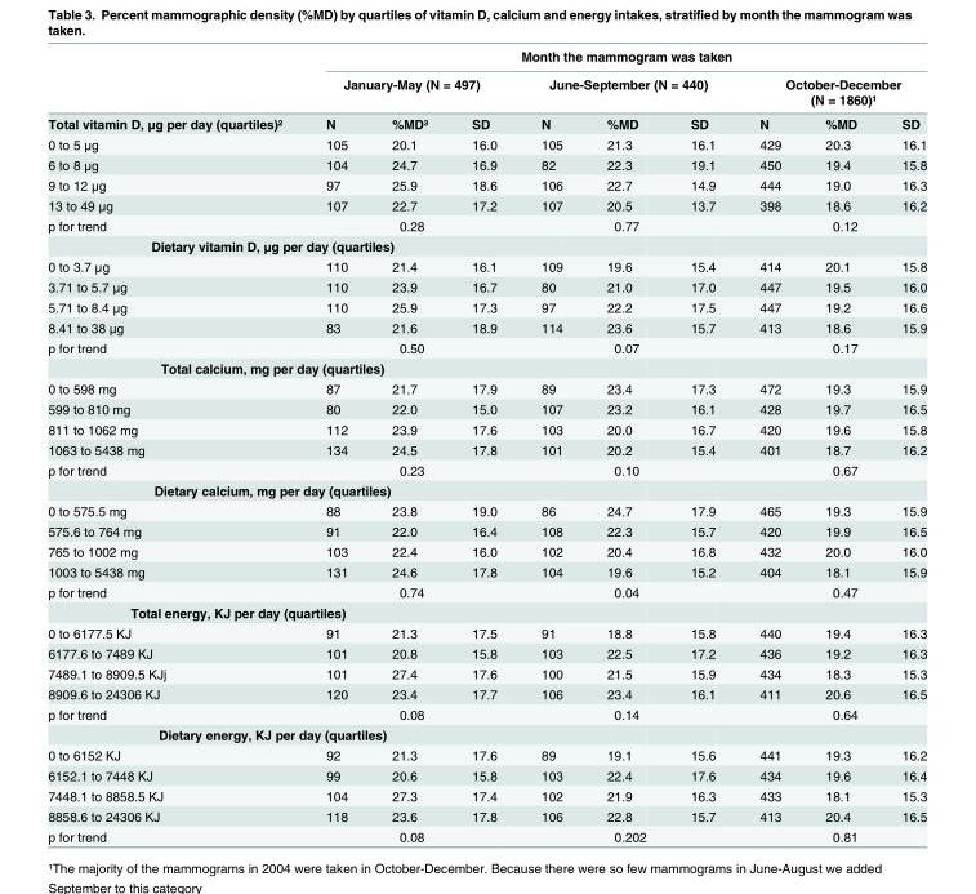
<table><thead><tr><td rowspan="3">Total vitamin D, μg per day (quartiles)²</td><td colspan="9">Month the mammogram was taken</td></tr><tr><td colspan="3">January-May (N = 497)</td><td colspan="3">June-September (N = 440)</td><td colspan="3">October-December (N = 1860)¹</td></tr><tr><td>N</td><td>%MD³</td><td>SD</td><td>N</td><td>%MD</td><td>SD</td><td>N</td><td>%MD</td><td>SD</td></tr></thead><tbody><tr><td>0 to 5 μg</td><td>105</td><td>20.1</td><td>16.0</td><td>105</td><td>21.3</td><td>16.1</td><td>429</td><td>20.3</td><td>16.1</td></tr><tr><td>6 to 8 μg</td><td>104</td><td>24.7</td><td>16.9</td><td>82</td><td>22.3</td><td>19.1</td><td>450</td><td>19.4</td><td>15.8</td></tr><tr><td>9 to 12 μg</td><td>97</td><td>25.9</td><td>18.6</td><td>106</td><td>22.7</td><td>14.9</td><td>444</td><td>19.0</td><td>16.3</td></tr><tr><td>13 to 49 μg</td><td>107</td><td>22.7</td><td>17.2</td><td>107</td><td>20.5</td><td>13.7</td><td>398</td><td>18.6</td><td>16.2</td></tr><tr><td>p for trend</td><td></td><td>0.28</td><td></td><td></td><td>0.77</td><td></td><td></td><td>0.12</td><td></td></tr><tr><td colspan="10">Dietary vitamin D, μg per day (quartiles)</td></tr><tr><td>0 to 3.7 μg</td><td>110</td><td>21.4</td><td>16.1</td><td>109</td><td>19.6</td><td>15.4</td><td>414</td><td>20.1</td><td>15.8</td></tr><tr><td>3.71 to 5.7 μg</td><td>110</td><td>23.9</td><td>16.7</td><td>80</td><td>21.0</td><td>17.0</td><td>447</td><td>19.5</td><td>16.0</td></tr><tr><td>5.71 to 8.4 μg</td><td>110</td><td>25.9</td><td>17.3</td><td>97</td><td>22.2</td><td>17.5</td><td>447</td><td>19.2</td><td>16.6</td></tr><tr><td>8.41 to 38 μg</td><td>83</td><td>21.6</td><td>18.9</td><td>114</td><td>23.6</td><td>15.7</td><td>413</td><td>18.6</td><td>15.9</td></tr><tr><td>p for trend</td><td></td><td>0.50</td><td></td><td></td><td>0.07</td><td></td><td></td><td>0.17</td><td></td></tr><tr><td colspan="10">Total calcium, mg per day (quartiles)</td></tr><tr><td>0 to 598 mg</td><td>87</td><td>21.7</td><td>17.9</td><td>89</td><td>23.4</td><td>17.3</td><td>472</td><td>19.3</td><td>15.9</td></tr><tr><td>599 to 810 mg</td><td>80</td><td>22.0</td><td>15.0</td><td>107</td><td>23.2</td><td>16.1</td><td>428</td><td>19.7</td><td>16.5</td></tr><tr><td>811 to 1062 mg</td><td>112</td><td>23.9</td><td>17.6</td><td>103</td><td>20.0</td><td>16.7</td><td>420</td><td>19.6</td><td>15.8</td></tr><tr><td>1063 to 5438 mg</td><td>134</td><td>24.5</td><td>17.8</td><td>101</td><td>20.2</td><td>15.4</td><td>401</td><td>18.7</td><td>16.2</td></tr><tr><td>p for trend</td><td></td><td>0.23</td><td></td><td></td><td>0.10</td><td></td><td></td><td>0.67</td><td></td></tr><tr><td colspan="10">Dietary calcium, mg per day (quartiles)</td></tr><tr><td>0 to 575.5 mg</td><td>88</td><td>23.8</td><td>19.0</td><td>86</td><td>24.7</td><td>17.9</td><td>465</td><td>19.3</td><td>15.9</td></tr><tr><td>575.6 to 764 mg</td><td>91</td><td>22.0</td><td>16.4</td><td>108</td><td>22.3</td><td>15.7</td><td>420</td><td>19.9</td><td>16.5</td></tr><tr><td>765 to 1002 mg</td><td>103</td><td>22.4</td><td>16.0</td><td>102</td><td>20.4</td><td>16.8</td><td>432</td><td>20.0</td><td>16.0</td></tr><tr><td>1003 to 5438 mg</td><td>131</td><td>24.6</td><td>17.8</td><td>104</td><td>19.6</td><td>15.2</td><td>404</td><td>18.1</td><td>15.9</td></tr><tr><td>p for trend</td><td></td><td>0.74</td><td></td><td></td><td>0.04</td><td></td><td></td><td>0.47</td><td></td></tr><tr><td colspan="10">Total energy, KJ per day (quartiles)</td></tr><tr><td>0 to 6177.5 KJ</td><td>91</td><td>21.3</td><td>17.5</td><td>91</td><td>18.8</td><td>15.8</td><td>440</td><td>19.4</td><td>16.3</td></tr><tr><td>6177.6 to 7489 KJ</td><td>101</td><td>20.8</td><td>15.8</td><td>103</td><td>22.5</td><td>17.2</td><td>436</td><td>19.2</td><td>16.3</td></tr><tr><td>7489.1 to 8909.5 KJj</td><td>101</td><td>27.4</td><td>17.6</td><td>100</td><td>21.5</td><td>15.9</td><td>434</td><td>18.3</td><td>15.3</td></tr><tr><td>8909.6 to 24306 KJ</td><td>120</td><td>23.4</td><td>17.7</td><td>106</td><td>23.4</td><td>16.1</td><td>411</td><td>20.6</td><td>16.5</td></tr><tr><td>p for trend</td><td></td><td>0.08</td><td></td><td></td><td>0.14</td><td></td><td></td><td>0.64</td><td></td></tr><tr><td colspan="10">Dietary energy, KJ per day (quartiles)</td></tr><tr><td>0 to 6152 KJ</td><td>92</td><td>21.3</td><td>17.6</td><td>89</td><td>19.1</td><td>15.6</td><td>441</td><td>19.3</td><td>16.2</td></tr><tr><td>6152.1 to 7448 KJ</td><td>99</td><td>20.6</td><td>15.8</td><td>103</td><td>22.4</td><td>17.6</td><td>434</td><td>19.6</td><td>16.4</td></tr><tr><td>7448.1 to 8858.5 KJ</td><td>104</td><td>27.3</td><td>17.4</td><td>102</td><td>21.9</td><td>16.3</td><td>433</td><td>18.1</td><td>15.3</td></tr><tr><td>8858.6 to 24306 KJ</td><td>118</td><td>23.6</td><td>17.8</td><td>106</td><td>22.8</td><td>15.7</td><td>413</td><td>20.4</td><td>16.5</td></tr><tr><td>p for trend</td><td></td><td>0.08</td><td></td><td></td><td>0.202</td><td></td><td></td><td>0.81</td><td></td></tr></tbody></table>